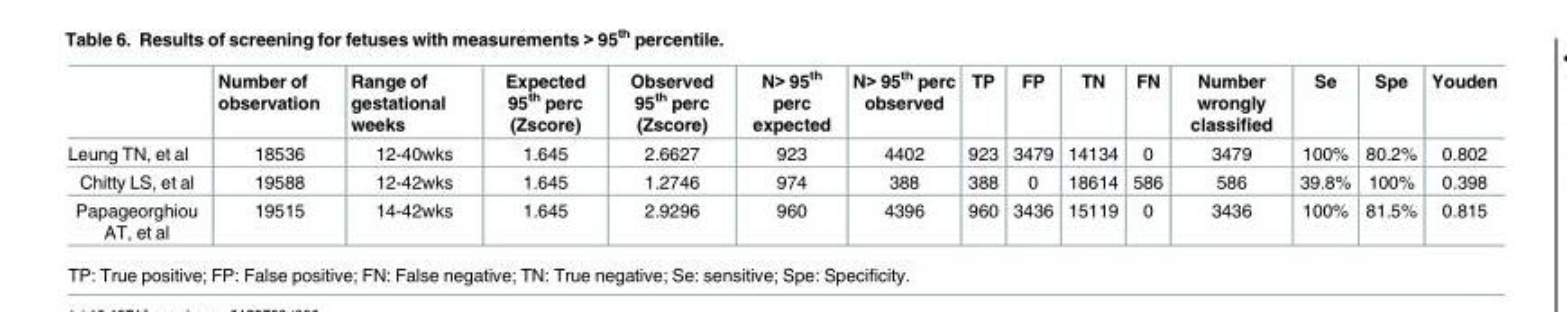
<table><thead><tr><td></td><td>Number of observation</td><td>Range of gestational weeks</td><td>Expected 95<sup>th</sup> perc (Zscore)</td><td>Observed 95<sup>th</sup> perc (Zscore)</td><td>N&gt; 95<sup>th</sup> perc expected</td><td>N&gt; 95<sup>th</sup> perc observed</td><td>TP</td><td>FP</td><td>TN</td><td>FN</td><td>Number wrongly classified</td><td>Se</td><td>Spe</td><td>Youden</td></tr></thead><tbody><tr><td>Leung TN, et al</td><td>18536</td><td>12-40wks</td><td>1.645</td><td>2.6627</td><td>923</td><td>4402</td><td>923</td><td>3479</td><td>14134</td><td>0</td><td>3479</td><td>100%</td><td>80.2%</td><td>0.802</td></tr><tr><td>Chitty LS, et al</td><td>19588</td><td>12-42wks</td><td>1.645</td><td>1.2746</td><td>974</td><td>388</td><td>388</td><td>0</td><td>18614</td><td>586</td><td>586</td><td>39.8%</td><td>100%</td><td>0.398</td></tr><tr><td>Papageorghiou AT, et al</td><td>19515</td><td>14-42wks</td><td>1.645</td><td>2.9296</td><td>960</td><td>4396</td><td>960</td><td>3436</td><td>15119</td><td>0</td><td>3436</td><td>100%</td><td>81.5%</td><td>0.815</td></tr></tbody></table>